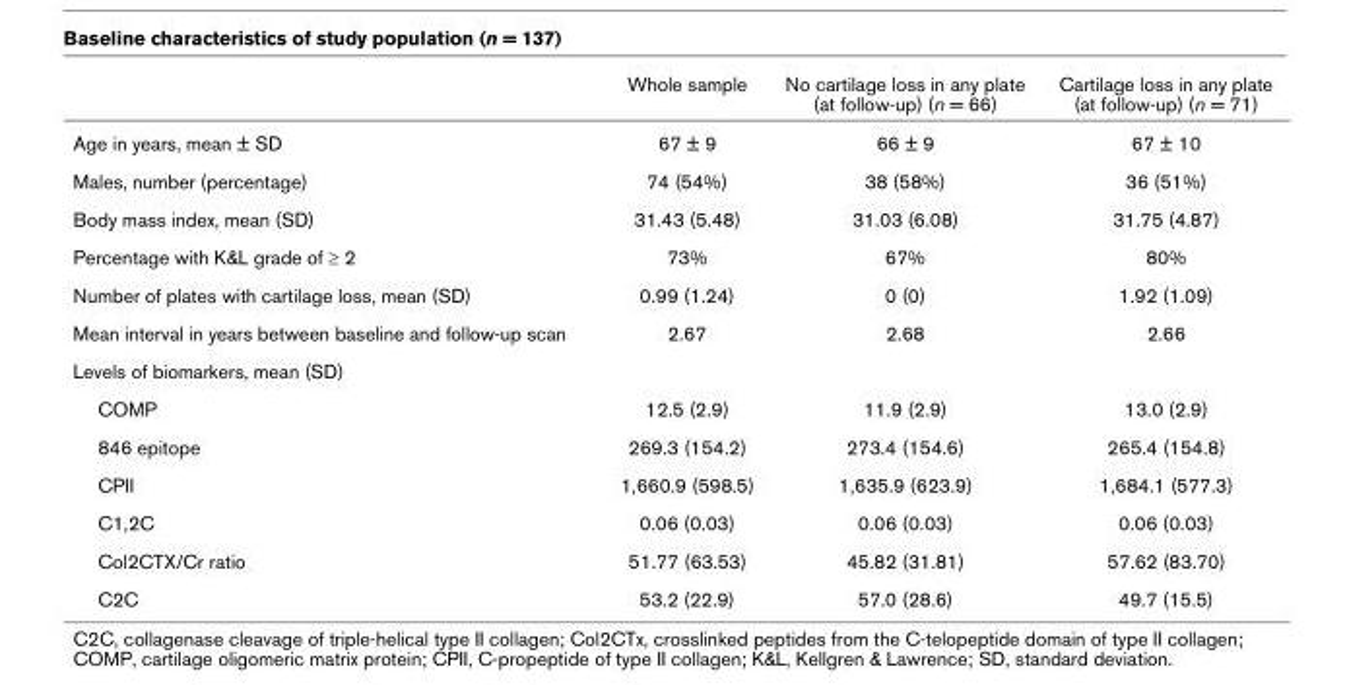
<table><thead><tr><td></td><td>Whole sample</td><td>No cartilage loss in any plate (at follow-up) (n = 66)</td><td>Cartilage loss in any plate (at follow-up) (n = 71)</td></tr></thead><tbody><tr><td>Age in years, mean ± SD</td><td>67 ± 9</td><td>66 ± 9</td><td>67 ± 10</td></tr><tr><td>Males, number (percentage)</td><td>74 (54%)</td><td>38 (58%)</td><td>36 (51%)</td></tr><tr><td>Body mass index, mean (SD)</td><td>31.43 (5.48)</td><td>31.03 (6.08)</td><td>31.75 (4.87)</td></tr><tr><td>Percentage with K&amp;L grade of ≥ 2</td><td>73%</td><td>67%</td><td>80%</td></tr><tr><td>Number of plates with cartilage loss, mean (SD)</td><td>0.99 (1.24)</td><td>0 (0)</td><td>1.92 (1.09)</td></tr><tr><td>Mean interval in years between baseline and follow-up scan</td><td>2.67</td><td>2.68</td><td>2.66</td></tr><tr><td colspan="4">Levels of biomarkers, mean (SD)</td></tr><tr><td>COMP</td><td>12.5 (2.9)</td><td>11.9 (2.9)</td><td>13.0 (2.9)</td></tr><tr><td>846 epitope</td><td>269.3 (154.2)</td><td>273.4 (154.6)</td><td>265.4 (154.8)</td></tr><tr><td>CPII</td><td>1,660.9 (598.5)</td><td>1,635.9 (623.9)</td><td>1,684.1 (577.3)</td></tr><tr><td>C1,2C</td><td>0.06 (0.03)</td><td>0.06 (0.03)</td><td>0.06 (0.03)</td></tr><tr><td>Col2CTX/Cr ratio</td><td>51.77 (63.53)</td><td>45.82 (31.81)</td><td>57.62 (83.70)</td></tr><tr><td>C2C</td><td>53.2 (22.9)</td><td>57.0 (28.6)</td><td>49.7 (15.5)</td></tr></tbody></table>